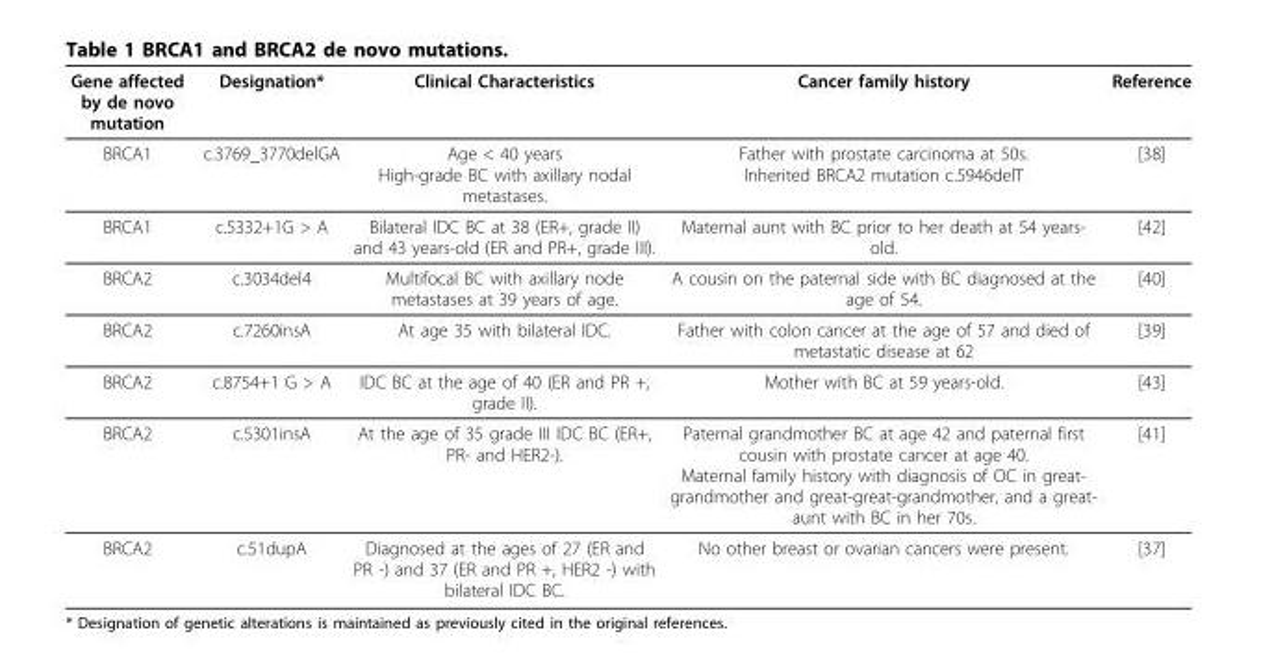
<table><thead><tr><td>Gene affected by de novo mutation</td><td>Designation*</td><td>Clinical Characteristics</td><td>Cancer family history</td><td>Reference</td></tr></thead><tbody><tr><td>BRCA1</td><td>c.3769_3770delGA</td><td>Age &lt; 40 years High-grade BC with axillary nodal metastases.</td><td>Father with prostate carcinoma at 50s. Inherited BRCA2 mutation c.5946delT</td><td>[38]</td></tr><tr><td>BRCA1</td><td>c.5332+1G &gt; A</td><td>Bilateral IDC BC at 38 (ER+, grade II) and 43 years-old (ER and PR+, grade III).</td><td>Maternal aunt with BC prior to her death at 54 years- old.</td><td>[42]</td></tr><tr><td>BRCA2</td><td>c.3034del4</td><td>Multifocal BC with axillary node metastases at 39 years of age.</td><td>A cousin on the paternal side with BC diagnosed at the age of 54.</td><td>[40]</td></tr><tr><td>BRCA2</td><td>c.7260insA</td><td>At age 35 with bilateral IDC.</td><td>Father with colon cancer at the age of 57 and died of metastatic disease at 62</td><td>[39]</td></tr><tr><td>BRCA2</td><td>c.8754+1 G &gt; A</td><td>IDC BC at the age of 40 (ER and PR +, grade II).</td><td>Mother with BC at 59 years-old.</td><td>[43]</td></tr><tr><td>BRCA2</td><td>c.5301insA</td><td>At the age of 35 grade III IDC BC (ER+, PR- and HER2-).</td><td>Paternal grandmother BC at age 42 and paternal first cousin with prostate cancer at age 40. Maternal family history with diagnosis of OC in great- grandmother and great-great-grandmother, and a great- aunt with BC in her 70s.</td><td>[41]</td></tr><tr><td>BRCA2</td><td>c.51dupA</td><td>Diagnosed at the ages of 27 (ER and PR -) and 37 (ER and PR +, HER2 -) with bilateral IDC BC.</td><td>No other breast or ovarian cancers were present.</td><td>[37]</td></tr></tbody></table>